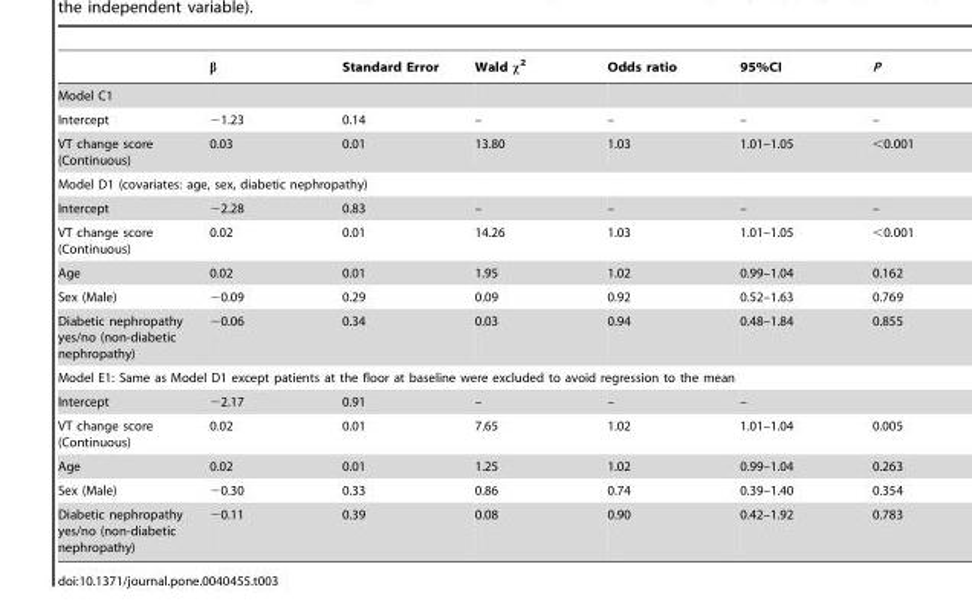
<table><thead><tr><td></td><td>β</td><td>Standard Error</td><td>Wald χ<sup>2</sup></td><td>Odds ratio</td><td>95%CI</td><td>P</td></tr></thead><tbody><tr><td colspan="7">Model C1</td></tr><tr><td>Intercept</td><td>−1.23</td><td>0.14</td><td>–</td><td>–</td><td>–</td><td>–</td></tr><tr><td>VT change score (Continuous)</td><td>0.03</td><td>0.01</td><td>13.80</td><td>1.03</td><td>1.01–1.05</td><td>&lt;0.001</td></tr><tr><td colspan="7">Model D1 (covariates: age, sex, diabetic nephropathy)</td></tr><tr><td>Intercept</td><td>−2.28</td><td>0.83</td><td>–</td><td>–</td><td>–</td><td>–</td></tr><tr><td>VT change score (Continuous)</td><td>0.02</td><td>0.01</td><td>14.26</td><td>1.03</td><td>1.01–1.05</td><td>&lt;0.001</td></tr><tr><td>Age</td><td>0.02</td><td>0.01</td><td>1.95</td><td>1.02</td><td>0.99–1.04</td><td>0.162</td></tr><tr><td>Sex (Male)</td><td>−0.09</td><td>0.29</td><td>0.09</td><td>0.92</td><td>0.52–1.63</td><td>0.769</td></tr><tr><td>Diabetic nephropathy yes/no (non-diabetic nephropathy)</td><td>−0.06</td><td>0.34</td><td>0.03</td><td>0.94</td><td>0.48–1.84</td><td>0.855</td></tr><tr><td colspan="7">Model E1: Same as Model D1 except patients at the floor at baseline were excluded to avoid regression to the mean</td></tr><tr><td>Intercept</td><td>−2.17</td><td>0.91</td><td>–</td><td>–</td><td>–</td><td></td></tr><tr><td>VT change score (Continuous)</td><td>0.02</td><td>0.01</td><td>7.65</td><td>1.02</td><td>1.01–1.04</td><td>0.005</td></tr><tr><td>Age</td><td>0.02</td><td>0.01</td><td>1.25</td><td>1.02</td><td>0.99–1.04</td><td>0.263</td></tr><tr><td>Sex (Male)</td><td>−0.30</td><td>0.33</td><td>0.86</td><td>0.74</td><td>0.39–1.40</td><td>0.354</td></tr><tr><td>Diabetic nephropathy yes/no (non-diabetic nephropathy)</td><td>−0.11</td><td>0.39</td><td>0.08</td><td>0.90</td><td>0.42–1.92</td><td>0.783</td></tr></tbody></table>